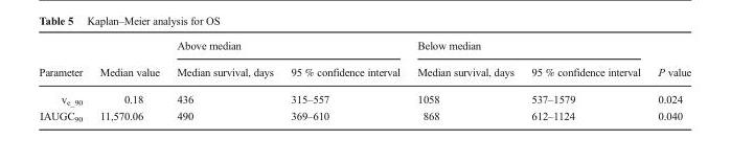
<table><thead><tr><td rowspan="2">Parameter</td><td rowspan="2">Median value</td><td colspan="2">Above median</td><td colspan="2">Below median</td><td rowspan="2">P value</td></tr><tr><td>Median survival, days</td><td>95 % confidence interval</td><td>Median survival, days</td><td>95 % confidence interval</td></tr></thead><tbody><tr><td>v<sub>e_90</sub></td><td>0.18</td><td>436</td><td>315–557</td><td>1058</td><td>537–1579</td><td>0.024</td></tr><tr><td>IAUGC<sub>90</sub></td><td>11,570.06</td><td>490</td><td>369–610</td><td>868</td><td>612–1124</td><td>0.040</td></tr></tbody></table>